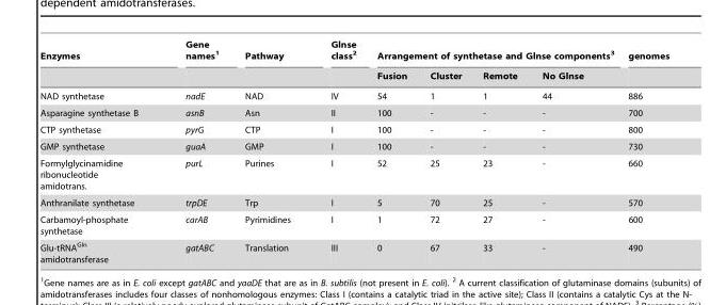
<table><thead><tr><td rowspan="2">Enzymes</td><td rowspan="2">Gene names<sup>1</sup></td><td rowspan="2">Pathway</td><td rowspan="2">Glnse class<sup>2</sup></td><td colspan="4">Arrangement of synthetase and Glnse components<sup>3</sup></td><td rowspan="2">genomes</td></tr><tr><td>Fusion</td><td>Cluster</td><td>Remote</td><td>No Glnse</td></tr></thead><tbody><tr><td>NAD synthetase</td><td>nadE</td><td>NAD</td><td>IV</td><td>54</td><td>1</td><td>1</td><td>44</td><td>886</td></tr><tr><td>Asparagine synthetase B</td><td>asnB</td><td>Asn</td><td>II</td><td>100</td><td>-</td><td>-</td><td>-</td><td>700</td></tr><tr><td>CTP synthetase</td><td>pyrG</td><td>CTP</td><td>I</td><td>100</td><td>-</td><td>-</td><td>-</td><td>800</td></tr><tr><td>GMP synthetase</td><td>guaA</td><td>GMP</td><td>I</td><td>100</td><td>-</td><td>-</td><td>-</td><td>730</td></tr><tr><td>Formylglycinamidine ribonucleotide amidotrans.</td><td>purL</td><td>Purines</td><td>I</td><td>52</td><td>25</td><td>23</td><td>-</td><td>660</td></tr><tr><td>Anthranilate synthetase</td><td>trpDE</td><td>Trp</td><td>I</td><td>5</td><td>70</td><td>25</td><td>-</td><td>570</td></tr><tr><td>Carbamoyl-phosphate synthetase</td><td>carAB</td><td>Pyrimidines</td><td>I</td><td>1</td><td>72</td><td>27</td><td>-</td><td>600</td></tr><tr><td>Glu-tRNA<sup>Gln</sup> amidotransferase</td><td>gatABC</td><td>Translation</td><td>III</td><td>0</td><td>67</td><td>33</td><td>-</td><td>490</td></tr></tbody></table>